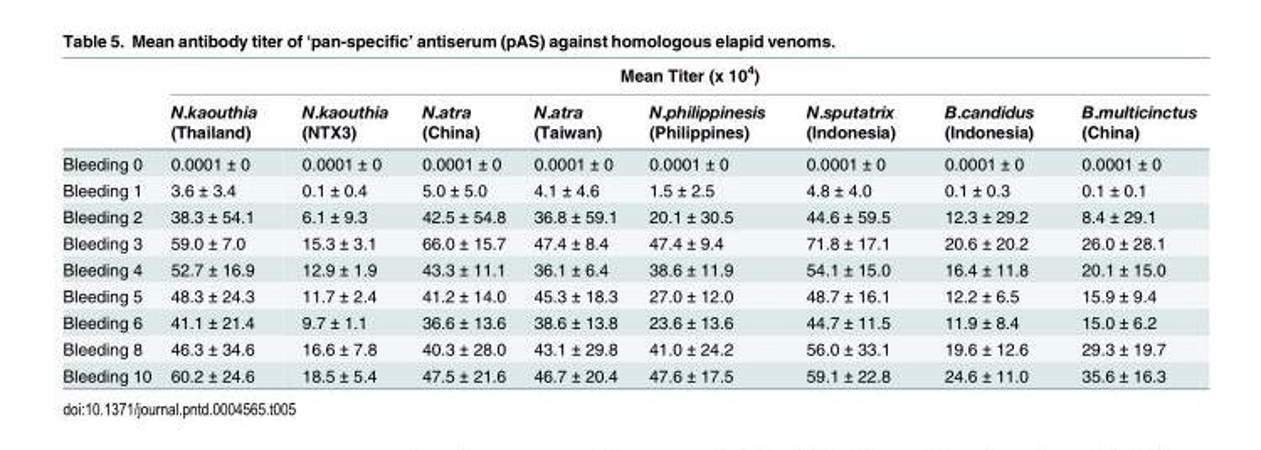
<table><thead><tr><td rowspan="2"></td><td colspan="8">Mean Titer (x 10<sup>4</sup>)</td></tr><tr><td>N.kaouthia (Thailand)</td><td>N.kaouthia (NTX3)</td><td>N.atra (China)</td><td>N.atra (Taiwan)</td><td>N.philippinesis (Philippines)</td><td>N.sputatrix (Indonesia)</td><td>B.candidus (Indonesia)</td><td>B.multicinctus (China)</td></tr></thead><tbody><tr><td>Bleeding 0</td><td>0.0001 ± 0</td><td>0.0001 ± 0</td><td>0.0001 ± 0</td><td>0.0001 ± 0</td><td>0.0001 ± 0</td><td>0.0001 ± 0</td><td>0.0001 ± 0</td><td>0.0001 ± 0</td></tr><tr><td>Bleeding 1</td><td>3.6 ± 3.4</td><td>0.1 ± 0.4</td><td>5.0 ± 5.0</td><td>4.1 ± 4.6</td><td>1.5 ± 2.5</td><td>4.8 ± 4.0</td><td>0.1 ± 0.3</td><td>0.1 ± 0.1</td></tr><tr><td>Bleeding 2</td><td>38.3 ± 54.1</td><td>6.1 ± 9.3</td><td>42.5 ± 54.8</td><td>36.8 ± 59.1</td><td>20.1 ± 30.5</td><td>44.6 ± 59.5</td><td>12.3 ± 29.2</td><td>8.4 ± 29.1</td></tr><tr><td>Bleeding 3</td><td>59.0 ± 7.0</td><td>15.3 ± 3.1</td><td>66.0 ± 15.7</td><td>47.4 ± 8.4</td><td>47.4 ± 9.4</td><td>71.8 ± 17.1</td><td>20.6 ± 20.2</td><td>26.0 ± 28.1</td></tr><tr><td>Bleeding 4</td><td>52.7 ± 16.9</td><td>12.9 ± 1.9</td><td>43.3 ± 11.1</td><td>36.1 ± 6.4</td><td>38.6 ± 11.9</td><td>54.1 ± 15.0</td><td>16.4 ± 11.8</td><td>20.1 ± 15.0</td></tr><tr><td>Bleeding 5</td><td>48.3 ± 24.3</td><td>11.7 ± 2.4</td><td>41.2 ± 14.0</td><td>45.3 ± 18.3</td><td>27.0 ± 12.0</td><td>48.7 ± 16.1</td><td>12.2 ± 6.5</td><td>15.9 ± 9.4</td></tr><tr><td>Bleeding 6</td><td>41.1 ± 21.4</td><td>9.7 ± 1.1</td><td>36.6 ± 13.6</td><td>38.6 ± 13.8</td><td>23.6 ± 13.6</td><td>44.7 ± 11.5</td><td>11.9 ± 8.4</td><td>15.0 ± 6.2</td></tr><tr><td>Bleeding 8</td><td>46.3 ± 34.6</td><td>16.6 ± 7.8</td><td>40.3 ± 28.0</td><td>43.1 ± 29.8</td><td>41.0 ± 24.2</td><td>56.0 ± 33.1</td><td>19.6 ± 12.6</td><td>29.3 ± 19.7</td></tr><tr><td>Bleeding 10</td><td>60.2 ± 24.6</td><td>18.5 ± 5.4</td><td>47.5 ± 21.6</td><td>46.7 ± 20.4</td><td>47.6 ± 17.5</td><td>59.1 ± 22.8</td><td>24.6 ± 11.0</td><td>35.6 ± 16.3</td></tr></tbody></table>